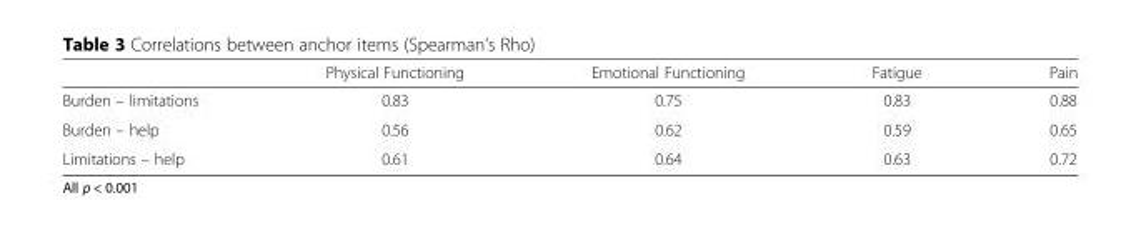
<table><thead><tr><td></td><td>Physical Functioning</td><td>Emotional Functioning</td><td>Fatigue</td><td>Pain</td></tr></thead><tbody><tr><td>Burden – limitations</td><td>0.83</td><td>0.75</td><td>0.83</td><td>0.88</td></tr><tr><td>Burden – help</td><td>0.56</td><td>0.62</td><td>0.59</td><td>0.65</td></tr><tr><td>Limitations – help</td><td>0.61</td><td>0.64</td><td>0.63</td><td>0.72</td></tr></tbody></table>